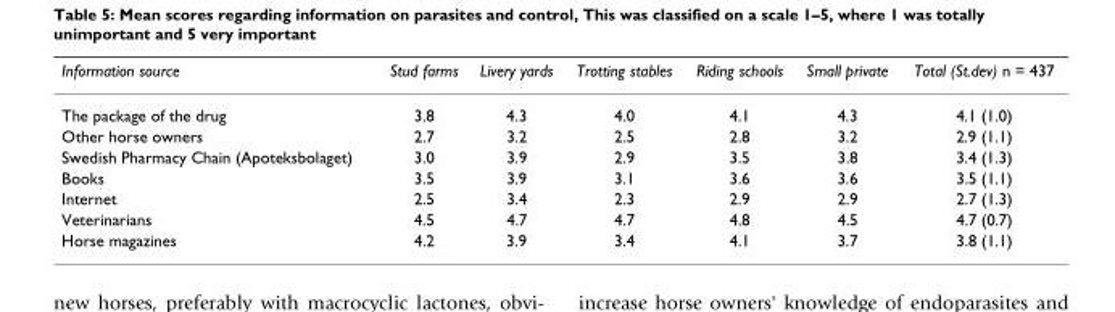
<table><thead><tr><td>Information source</td><td>Stud farms</td><td>Livery yards</td><td>Trotting stables</td><td>Riding schools</td><td>Small private</td><td>Total (St.dev) n = 437</td></tr></thead><tbody><tr><td>The package of the drug</td><td>3.8</td><td>4.3</td><td>4.0</td><td>4.1</td><td>4.3</td><td>4.1 (1.0)</td></tr><tr><td>Other horse owners</td><td>2.7</td><td>3.2</td><td>2.5</td><td>2.8</td><td>3.2</td><td>2.9 (1.1)</td></tr><tr><td>Swedish Pharmacy Chain (Apoteksbolaget)</td><td>3.0</td><td>3.9</td><td>2.9</td><td>3.5</td><td>3.8</td><td>3.4 (1.3)</td></tr><tr><td>Books</td><td>3.5</td><td>3.9</td><td>3.1</td><td>3.6</td><td>3.6</td><td>3.5 (1.1)</td></tr><tr><td>Internet</td><td>2.5</td><td>3.4</td><td>2.3</td><td>2.9</td><td>2.9</td><td>2.7 (1.3)</td></tr><tr><td>Veterinarians</td><td>4.5</td><td>4.7</td><td>4.7</td><td>4.8</td><td>4.5</td><td>4.7 (0.7)</td></tr><tr><td>Horse magazines</td><td>4.2</td><td>3.9</td><td>3.4</td><td>4.1</td><td>3.7</td><td>3.8 (1.1)</td></tr></tbody></table>